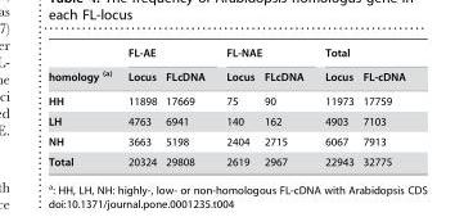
<table><thead><tr><td rowspan="2">homology (a)</td><td colspan="2">FL-AE</td><td colspan="2">FL-NAE</td><td colspan="2">Total</td></tr><tr><td>Locus</td><td>FLcDNA</td><td>Locus</td><td>FLcDNA</td><td>Locus</td><td>FL-cDNA</td></tr></thead><tbody><tr><td>HH</td><td>11898</td><td>17669</td><td>75</td><td>90</td><td>11973</td><td>17759</td></tr><tr><td>LH</td><td>4763</td><td>6941</td><td>140</td><td>162</td><td>4903</td><td>7103</td></tr><tr><td>NH</td><td>3663</td><td>5198</td><td>2404</td><td>2715</td><td>6067</td><td>7913</td></tr><tr><td>Total</td><td>20324</td><td>29808</td><td>2619</td><td>2967</td><td>22943</td><td>32775</td></tr></tbody></table>